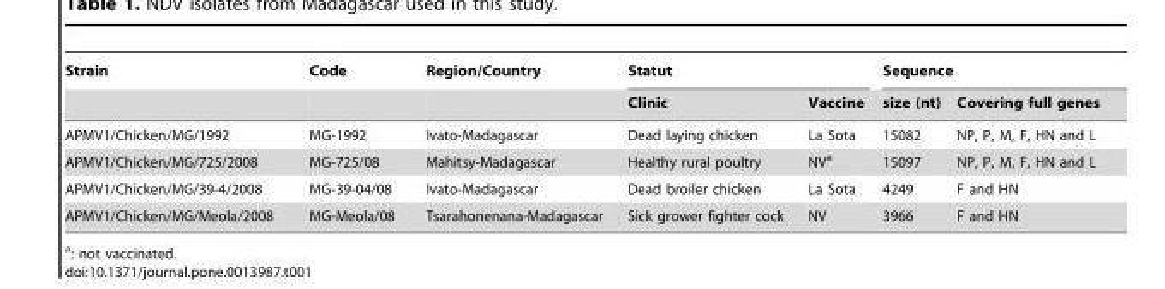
<table><thead><tr><td rowspan="2">Strain</td><td rowspan="2">Code</td><td rowspan="2">Region/Country</td><td colspan="2">Statut</td><td colspan="2">Sequence</td></tr><tr><td>Clinic</td><td>Vaccine</td><td>size (nt)</td><td>Covering full genes</td></tr></thead><tbody><tr><td>APMV1/Chicken/MG/1992</td><td>MG-1992</td><td>Ivato-Madagascar</td><td>Dead laying chicken</td><td>La Sota</td><td>15082</td><td>NP, P, M, F, HN and L</td></tr><tr><td>APMV1/Chicken/MG/725/2008</td><td>MG-725/08</td><td>Mahitsy-Madagascar</td><td>Healthy rural poultry</td><td>NV<sup>a</sup></td><td>15097</td><td>NP, P, M, F, HN and L</td></tr><tr><td>APMV1/Chicken/MG/39-4/2008</td><td>MG-39-04/08</td><td>Ivato-Madagascar</td><td>Dead broiler chicken</td><td>La Sota</td><td>4249</td><td>F and HN</td></tr><tr><td>APMV1/Chicken/MG/Meola/2008</td><td>MG-Meola/08</td><td>Tsarahonenana-Madagascar</td><td>Sick grower fighter cock</td><td>NV</td><td>3966</td><td>F and HN</td></tr></tbody></table>